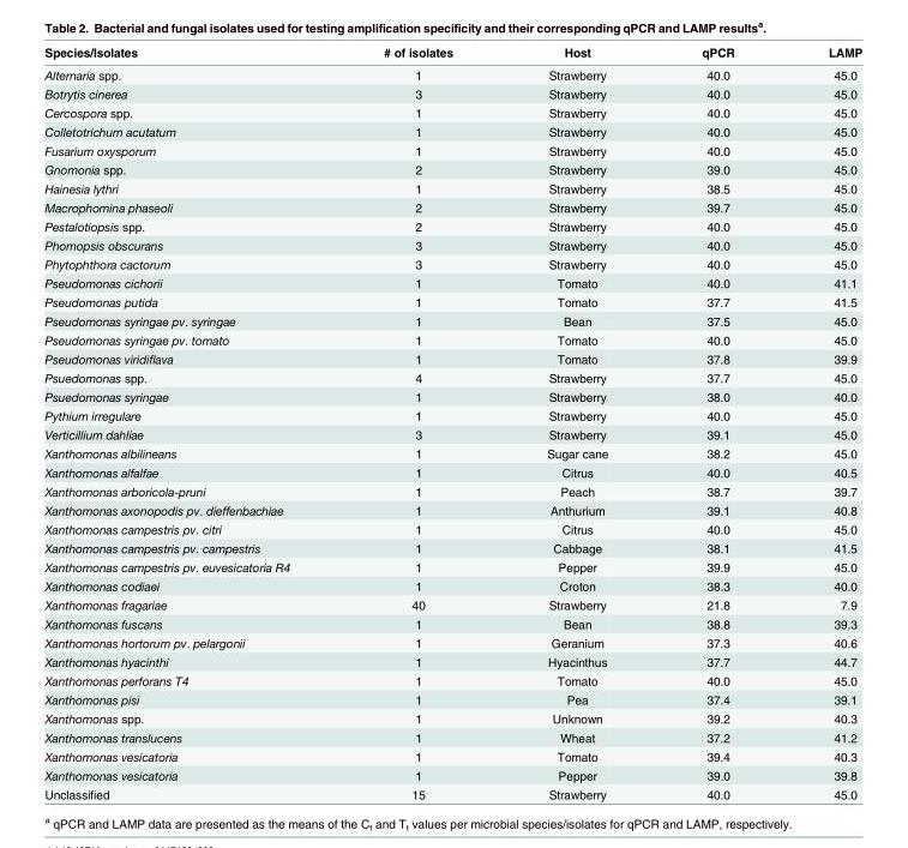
<table><thead><tr><td>Species/Isolates</td><td># of isolates</td><td>Host</td><td>qPCR</td><td>LAMP</td></tr></thead><tbody><tr><td>Alternaria spp.</td><td>1</td><td>Strawberry</td><td>40.0</td><td>45.0</td></tr><tr><td>Botrytis cinerea</td><td>3</td><td>Strawberry</td><td>40.0</td><td>45.0</td></tr><tr><td>Cercospora spp.</td><td>1</td><td>Strawberry</td><td>40.0</td><td>45.0</td></tr><tr><td>Colletotrichum acutatum</td><td>1</td><td>Strawberry</td><td>40.0</td><td>45.0</td></tr><tr><td>Fusarium oxysporum</td><td>1</td><td>Strawberry</td><td>40.0</td><td>45.0</td></tr><tr><td>Gnomonia spp.</td><td>2</td><td>Strawberry</td><td>39.0</td><td>45.0</td></tr><tr><td>Hainesia lythri</td><td>1</td><td>Strawberry</td><td>38.5</td><td>45.0</td></tr><tr><td>Macrophomina phaseoli</td><td>2</td><td>Strawberry</td><td>39.7</td><td>45.0</td></tr><tr><td>Pestalotiopsis spp.</td><td>2</td><td>Strawberry</td><td>40.0</td><td>45.0</td></tr><tr><td>Phomopsis obscurans</td><td>3</td><td>Strawberry</td><td>40.0</td><td>45.0</td></tr><tr><td>Phytophthora cactorum</td><td>3</td><td>Strawberry</td><td>40.0</td><td>45.0</td></tr><tr><td>Pseudomonas cichorii</td><td>1</td><td>Tomato</td><td>40.0</td><td>41.1</td></tr><tr><td>Pseudomonas putida</td><td>1</td><td>Tomato</td><td>37.7</td><td>41.5</td></tr><tr><td>Pseudomonas syringae pv. syringae</td><td>1</td><td>Bean</td><td>37.5</td><td>45.0</td></tr><tr><td>Pseudomonas syringae pv. tomato</td><td>1</td><td>Tomato</td><td>40.0</td><td>45.0</td></tr><tr><td>Pseudomonas viridiflava</td><td>1</td><td>Tomato</td><td>37.8</td><td>39.9</td></tr><tr><td>Psuedomonas spp.</td><td>4</td><td>Strawberry</td><td>37.7</td><td>45.0</td></tr><tr><td>Psuedomonas syringae</td><td>1</td><td>Strawberry</td><td>38.0</td><td>40.0</td></tr><tr><td>Pythium irregulare</td><td>1</td><td>Strawberry</td><td>40.0</td><td>45.0</td></tr><tr><td>Verticillium dahliae</td><td>3</td><td>Strawberry</td><td>39.1</td><td>45.0</td></tr><tr><td>Xanthomonas albilineans</td><td>1</td><td>Sugar cane</td><td>38.2</td><td>45.0</td></tr><tr><td>Xanthomonas alfalfae</td><td>1</td><td>Citrus</td><td>40.0</td><td>40.5</td></tr><tr><td>Xanthomonas arboricola-pruni</td><td>1</td><td>Peach</td><td>38.7</td><td>39.7</td></tr><tr><td>Xanthomonas axonopodis pv. dieffenbachiae</td><td>1</td><td>Anthurium</td><td>39.1</td><td>40.8</td></tr><tr><td>Xanthomonas campestris pv. citri</td><td>1</td><td>Citrus</td><td>40.0</td><td>45.0</td></tr><tr><td>Xanthomonas campestris pv. campestris</td><td>1</td><td>Cabbage</td><td>38.1</td><td>41.5</td></tr><tr><td>Xanthomonas campestris pv. euvesicatoria R4</td><td>1</td><td>Pepper</td><td>39.9</td><td>45.0</td></tr><tr><td>Xanthomonas codiaei</td><td>1</td><td>Croton</td><td>38.3</td><td>40.0</td></tr><tr><td>Xanthomonas fragariae</td><td>40</td><td>Strawberry</td><td>21.8</td><td>7.9</td></tr><tr><td>Xanthomonas fuscans</td><td>1</td><td>Bean</td><td>38.8</td><td>39.3</td></tr><tr><td>Xanthomonas hortorum pv. pelargonii</td><td>1</td><td>Geranium</td><td>37.3</td><td>40.6</td></tr><tr><td>Xanthomonas hyacinthi</td><td>1</td><td>Hyacinthus</td><td>37.7</td><td>44.7</td></tr><tr><td>Xanthomonas perforans T4</td><td>1</td><td>Tomato</td><td>40.0</td><td>45.0</td></tr><tr><td>Xanthomonas pisi</td><td>1</td><td>Pea</td><td>37.4</td><td>39.1</td></tr><tr><td>Xanthomonas spp.</td><td>1</td><td>Unknown</td><td>39.2</td><td>40.3</td></tr><tr><td>Xanthomonas translucens</td><td>1</td><td>Wheat</td><td>37.2</td><td>41.2</td></tr><tr><td>Xanthomonas vesicatoria</td><td>1</td><td>Tomato</td><td>39.4</td><td>40.3</td></tr><tr><td>Xanthomonas vesicatoria</td><td>1</td><td>Pepper</td><td>39.0</td><td>39.8</td></tr><tr><td>Unclassified</td><td>15</td><td>Strawberry</td><td>40.0</td><td>45.0</td></tr></tbody></table>